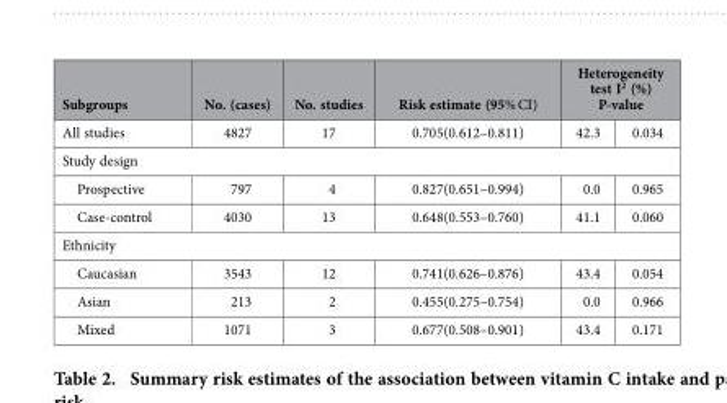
<table><thead><tr><td rowspan="2">Subgroups All studies</td><td rowspan="2">No. (cases) 4827</td><td rowspan="2">No. studies 17</td><td rowspan="2">Risk estimate (95% CI) 0.705(0.612–0.811)</td><td colspan="2">Heterogeneity test I<sup>2</sup> (%) P-value</td></tr><tr><td>42.3</td><td>0.034</td></tr></thead><tbody><tr><td colspan="6">Study design</td></tr><tr><td>Prospective</td><td>797</td><td>4</td><td>0.827(0.651–0.994)</td><td>0.0</td><td>0.965</td></tr><tr><td>Case-control</td><td>4030</td><td>13</td><td>0.648(0.553–0.760)</td><td>41.1</td><td>0.060</td></tr><tr><td colspan="6">Ethnicity</td></tr><tr><td>Caucasian</td><td>3543</td><td>12</td><td>0.741(0.626–0.876)</td><td>43.4</td><td>0.054</td></tr><tr><td>Asian</td><td>213</td><td>2</td><td>0.455(0.275–0.754)</td><td>0.0</td><td>0.966</td></tr><tr><td>Mixed</td><td>1071</td><td>3</td><td>0.677(0.508–0.901)</td><td>43.4</td><td>0.171</td></tr></tbody></table>